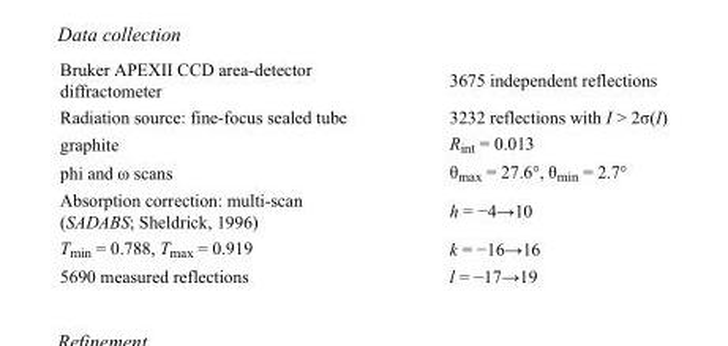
<table><tbody><tr><td>Bruker APEXII CCD area-detector diffractometer</td><td>3675 independent reflections</td></tr><tr><td>Radiation source: fine-focus sealed tube</td><td>3232 reflections with I &gt; 2σ(I)</td></tr><tr><td>graphite</td><td>R<sub>int</sub> = 0.013</td></tr><tr><td>phi and ω scans</td><td>θ<sub>max</sub> = 27.6°, θ<sub>min</sub> = 2.7°</td></tr><tr><td>Absorption correction: multi-scan (SADABS; Sheldrick, 1996)</td><td>h = −4→10</td></tr><tr><td>T<sub>min</sub> = 0.788, T<sub>max</sub> = 0.919</td><td>k = −16→16</td></tr><tr><td>5690 measured reflections</td><td>l = −17→19</td></tr></tbody></table>